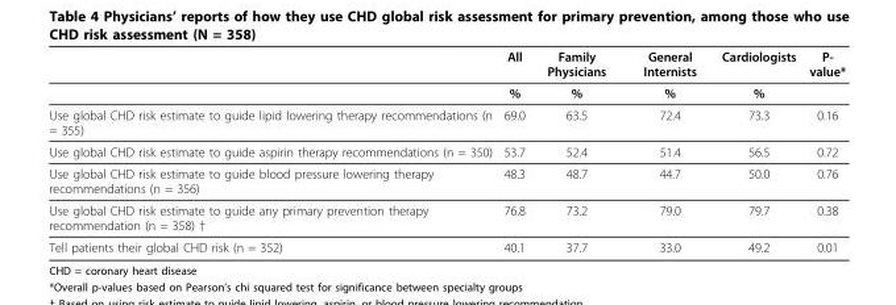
<table><thead><tr><td></td><td>All</td><td>Family Physicians</td><td>General Internists</td><td>Cardiologists</td><td>P- value*</td></tr></thead><tbody><tr><td></td><td>%</td><td>%</td><td>%</td><td>%</td><td></td></tr><tr><td>Use global CHD risk estimate to guide lipid lowering therapy recommendations (n = 355)</td><td>69.0</td><td>63.5</td><td>72.4</td><td>73.3</td><td>0.16</td></tr><tr><td>Use global CHD risk estimate to guide aspirin therapy recommendations (n = 350)</td><td>53.7</td><td>52.4</td><td>51.4</td><td>56.5</td><td>0.72</td></tr><tr><td>Use global CHD risk estimate to guide blood pressure lowering therapy recommendations (n = 356)</td><td>48.3</td><td>48.7</td><td>44.7</td><td>50.0</td><td>0.76</td></tr><tr><td>Use global CHD risk estimate to guide any primary prevention therapy recommendation (n = 358) †</td><td>76.8</td><td>73.2</td><td>79.0</td><td>79.7</td><td>0.38</td></tr><tr><td>Tell patients their global CHD risk (n = 352)</td><td>40.1</td><td>37.7</td><td>33.0</td><td>49.2</td><td>0.01</td></tr></tbody></table>